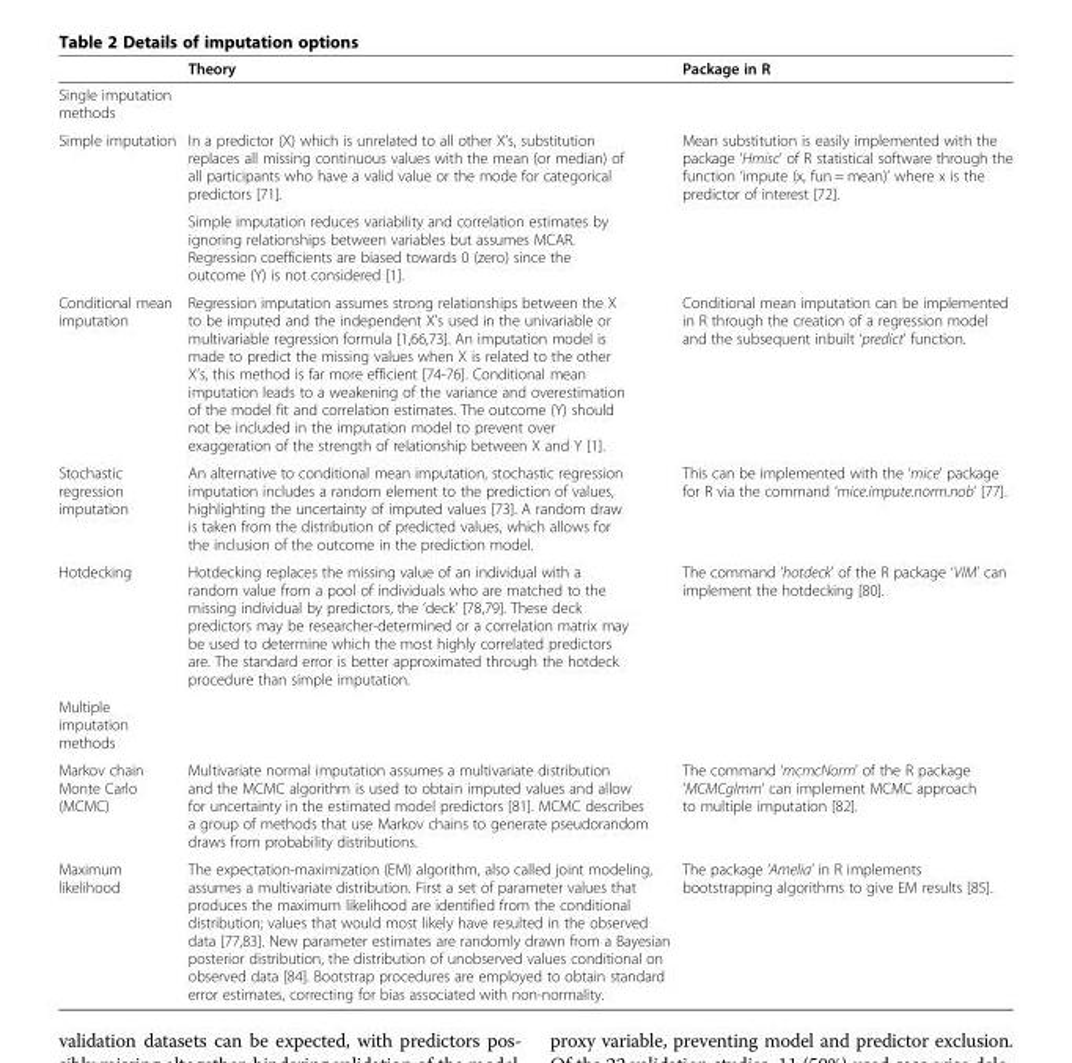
<table><thead><tr><td></td><td>Theory</td><td>Package in R</td></tr></thead><tbody><tr><td colspan="3">Single imputation methods</td></tr><tr><td rowspan="2">Simple imputation</td><td>In a predictor (X) which is unrelated to all other X’s, substitution replaces all missing continuous values with the mean (or median) of all participants who have a valid value or the mode for categorical predictors [71].</td><td>Mean substitution is easily implemented with the package ‘Hmisc’ of R statistical software through the function ‘impute (x, fun = mean)’ where x is the predictor of interest [72].</td></tr><tr><td>Simple imputation reduces variability and correlation estimates by ignoring relationships between variables but assumes MCAR. Regression coefficients are biased towards 0 (zero) since the outcome (Y) is not considered [1].</td><td></td></tr><tr><td>Conditional mean imputation</td><td>Regression imputation assumes strong relationships between the X to be imputed and the independent X’s used in the univariable or multivariable regression formula [1,66,73]. An imputation model is made to predict the missing values when X is related to the other X’s, this method is far more efficient [74-76]. Conditional mean imputation leads to a weakening of the variance and overestimation of the model fit and correlation estimates. The outcome (Y) should not be included in the imputation model to prevent over exaggeration of the strength of relationship between X and Y [1].</td><td>Conditional mean imputation can be implemented in R through the creation of a regression model and the subsequent inbuilt ‘predict’ function.</td></tr><tr><td>Stochastic regression imputation</td><td>An alternative to conditional mean imputation, stochastic regression imputation includes a random element to the prediction of values, highlighting the uncertainty of imputed values [73]. A random draw is taken from the distribution of predicted values, which allows for the inclusion of the outcome in the prediction model.</td><td>This can be implemented with the ‘mice’ package for R via the command ‘mice.impute.norm.nob’ [77].</td></tr><tr><td>Hotdecking</td><td>Hotdecking replaces the missing value of an individual with a random value from a pool of individuals who are matched to the missing individual by predictors, the ‘deck’ [78,79]. These deck predictors may be researcher-determined or a correlation matrix may be used to determine which the most highly correlated predictors are. The standard error is better approximated through the hotdeck procedure than simple imputation.</td><td>The command ‘hotdeck’ of the R package ‘VIM’ can implement the hotdecking [80].</td></tr><tr><td colspan="3">Multiple imputation methods</td></tr><tr><td>Markov chain Monte Carlo (MCMC)</td><td>Multivariate normal imputation assumes a multivariate distribution and the MCMC algorithm is used to obtain imputed values and allow for uncertainty in the estimated model predictors [81]. MCMC describes a group of methods that use Markov chains to generate pseudorandom draws from probability distributions.</td><td>The command ‘mcmcNorm’ of the R package ‘MCMCglmm’ can implement MCMC approach to multiple imputation [82].</td></tr><tr><td>Maximum likelihood</td><td>The expectation-maximization (EM) algorithm, also called joint modeling, assumes a multivariate distribution. First a set of parameter values that produces the maximum likelihood are identified from the conditional distribution; values that would most likely have resulted in the observed data [77,83]. New parameter estimates are randomly drawn from a Bayesian posterior distribution, the distribution of unobserved values conditional on observed data [84]. Bootstrap procedures are employed to obtain standard error estimates, correcting for bias associated with non-normality.</td><td>The package ‘Amelia’ in R implements bootstrapping algorithms to give EM results [85].</td></tr></tbody></table>